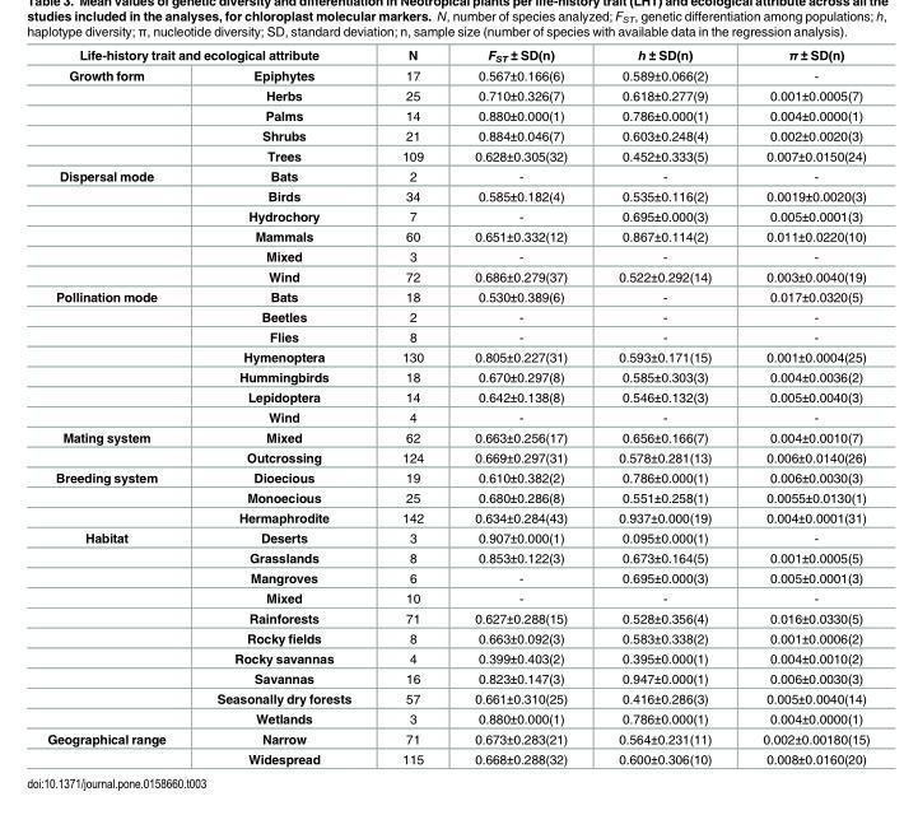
<table><thead><tr><td colspan="2">Life-history trait and ecological attribute</td><td rowspan="2">N 17</td><td rowspan="2">F<sub>ST</sub> ± SD(n) 0.567±0.166(6)</td><td rowspan="2">h ± SD(n) 0.589±0.066(2)</td><td rowspan="2">π ± SD(n) -</td></tr><tr><td>Growth form</td><td>Epiphytes</td></tr></thead><tbody><tr><td></td><td>Herbs</td><td>25</td><td>0.710±0.326(7)</td><td>0.618±0.277(9)</td><td>0.001±0.0005(7)</td></tr><tr><td></td><td>Palms</td><td>14</td><td>0.880±0.000(1)</td><td>0.786±0.000(1)</td><td>0.004±0.0000(1)</td></tr><tr><td></td><td>Shrubs</td><td>21</td><td>0.884±0.046(7)</td><td>0.603±0.248(4)</td><td>0.002±0.0020(3)</td></tr><tr><td></td><td>Trees</td><td>109</td><td>0.628±0.305(32)</td><td>0.452±0.333(5)</td><td>0.007±0.0150(24)</td></tr><tr><td rowspan="6">Dispersal mode</td><td>Bats</td><td>2</td><td>-</td><td>-</td><td>-</td></tr><tr><td>Birds</td><td>34</td><td>0.585±0.182(4)</td><td>0.535±0.116(2)</td><td>0.0019±0.0020(3)</td></tr><tr><td>Hydrochory</td><td>7</td><td>-</td><td>0.695±0.000(3)</td><td>0.005±0.0001(3)</td></tr><tr><td>Mammals</td><td>60</td><td>0.651±0.332(12)</td><td>0.867±0.114(2)</td><td>0.011±0.0220(10)</td></tr><tr><td>Mixed</td><td>3</td><td>-</td><td>-</td><td>-</td></tr><tr><td>Wind</td><td>72</td><td>0.686±0.279(37)</td><td>0.522±0.292(14)</td><td>0.003±0.0040(19)</td></tr><tr><td rowspan="7">Pollination mode</td><td>Bats</td><td>18</td><td>0.530±0.389(6)</td><td>-</td><td>0.017±0.0320(5)</td></tr><tr><td>Beetles</td><td>2</td><td>-</td><td>-</td><td>-</td></tr><tr><td>Flies</td><td>8</td><td>-</td><td>-</td><td>-</td></tr><tr><td>Hymenoptera</td><td>130</td><td>0.805±0.227(31)</td><td>0.593±0.171(15)</td><td>0.001±0.0004(25)</td></tr><tr><td>Hummingbirds</td><td>18</td><td>0.670±0.297(8)</td><td>0.585±0.303(3)</td><td>0.004±0.0036(2)</td></tr><tr><td>Lepidoptera</td><td>14</td><td>0.642±0.138(8)</td><td>0.546±0.132(3)</td><td>0.005±0.0040(3)</td></tr><tr><td>Wind</td><td>4</td><td>-</td><td>-</td><td>-</td></tr><tr><td rowspan="2">Mating system</td><td>Mixed</td><td>62</td><td>0.663±0.256(17)</td><td>0.656±0.166(7)</td><td>0.004±0.0010(7)</td></tr><tr><td>Outcrossing</td><td>124</td><td>0.669±0.297(31)</td><td>0.578±0.281(13)</td><td>0.006±0.0140(26)</td></tr><tr><td rowspan="3">Breeding system</td><td>Dioecious</td><td>19</td><td>0.610±0.382(2)</td><td>0.786±0.000(1)</td><td>0.006±0.0030(3)</td></tr><tr><td>Monoecious</td><td>25</td><td>0.680±0.286(8)</td><td>0.551±0.258(1)</td><td>0.0055±0.0130(1)</td></tr><tr><td>Hermaphrodite</td><td>142</td><td>0.634±0.284(43)</td><td>0.937±0.000(19)</td><td>0.004±0.0001(31)</td></tr><tr><td rowspan="10">Habitat</td><td>Deserts</td><td>3</td><td>0.907±0.000(1)</td><td>0.095±0.000(1)</td><td>-</td></tr><tr><td>Grasslands</td><td>8</td><td>0.853±0.122(3)</td><td>0.673±0.164(5)</td><td>0.001±0.0005(5)</td></tr><tr><td>Mangroves</td><td>6</td><td>-</td><td>0.695±0.000(3)</td><td>0.005±0.0001(3)</td></tr><tr><td>Mixed</td><td>10</td><td>-</td><td>-</td><td>-</td></tr><tr><td>Rainforests</td><td>71</td><td>0.627±0.288(15)</td><td>0.528±0.356(4)</td><td>0.016±0.0330(5)</td></tr><tr><td>Rocky fields</td><td>8</td><td>0.663±0.092(3)</td><td>0.583±0.338(2)</td><td>0.001±0.0006(2)</td></tr><tr><td>Rocky savannas</td><td>4</td><td>0.399±0.403(2)</td><td>0.395±0.000(1)</td><td>0.004±0.0010(2)</td></tr><tr><td>Savannas</td><td>16</td><td>0.823±0.147(3)</td><td>0.947±0.000(1)</td><td>0.006±0.0030(3)</td></tr><tr><td>Seasonally dry forests</td><td>57</td><td>0.661±0.310(25)</td><td>0.416±0.286(3)</td><td>0.005±0.0040(14)</td></tr><tr><td>Wetlands</td><td>3</td><td>0.880±0.000(1)</td><td>0.786±0.000(1)</td><td>0.004±0.0000(1)</td></tr><tr><td rowspan="2">Geographical range</td><td>Narrow</td><td>71</td><td>0.673±0.283(21)</td><td>0.564±0.231(11)</td><td>0.002±0.00180(15)</td></tr><tr><td>Widespread</td><td>115</td><td>0.668±0.288(32)</td><td>0.600±0.306(10)</td><td>0.008±0.0160(20)</td></tr></tbody></table>